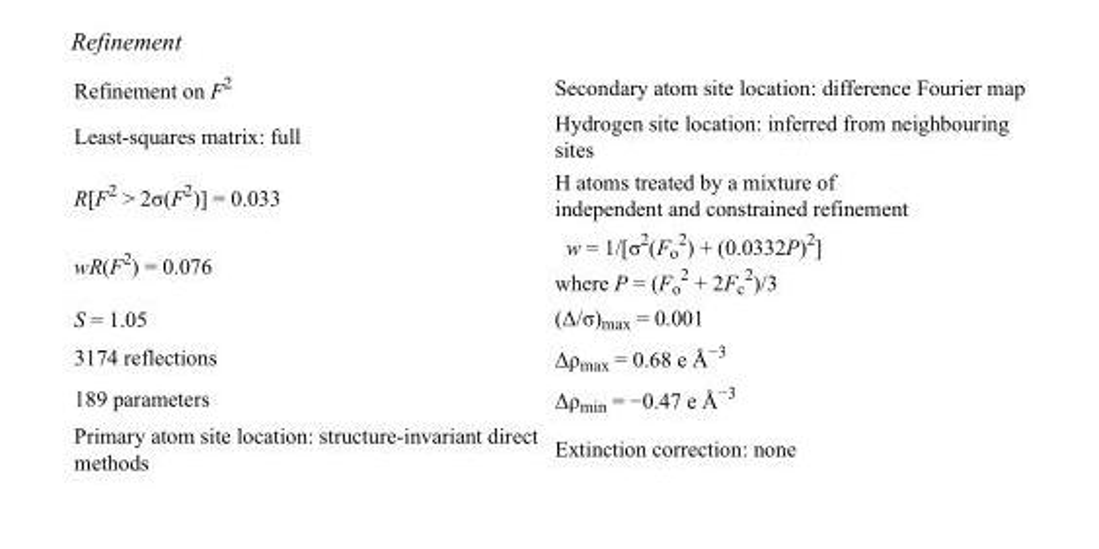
<table><tbody><tr><td>Refinement on F<sup>2</sup></td><td>Secondary atom site location: difference Fourier map</td></tr><tr><td>Least-squares matrix: full</td><td>Hydrogen site location: inferred from neighbouring sites</td></tr><tr><td>R[F<sup>2</sup> &gt; 2σ(F<sup>2</sup>)] = 0.033</td><td>H atoms treated by a mixture of independent and constrained refinement</td></tr><tr><td>wR(F<sup>2</sup>) = 0.076</td><td>w = 1/[σ<sup>2</sup>(F<sub>o</sub> <sup>2</sup>) + (0.0332P)<sup>2</sup>] where P = (F<sub>o</sub> <sup>2</sup> + 2F<sub>c</sub> <sup>2</sup>)/3</td></tr><tr><td>S = 1.05</td><td>(Δ/σ)<sub>max</sub> = 0.001</td></tr><tr><td>3174 reflections</td><td>Δρ<sub>max</sub> = 0.68 e Å<sup>−3</sup></td></tr><tr><td>189 parameters</td><td>Δρ<sub>min</sub> = −0.47 e Å<sup>−3</sup></td></tr><tr><td>Primary atom site location: structure-invariant direct methods</td><td>Extinction correction: none</td></tr></tbody></table>